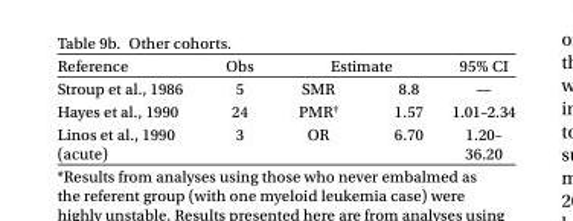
<table><thead><tr><td rowspan="2">Reference Stroup et al., 1986</td><td rowspan="2">Obs 5</td><td colspan="2">Estimate</td><td rowspan="2">95% CI —</td></tr><tr><td>SMR</td><td>8.8</td></tr></thead><tbody><tr><td>Hayes et al., 1990</td><td>24</td><td>PMR‡</td><td>1.57</td><td>1.01–2.34</td></tr><tr><td>Linos et al., 1990 (acute)</td><td>3</td><td>OR</td><td>6.70</td><td>1.20– 36.20</td></tr></tbody></table>